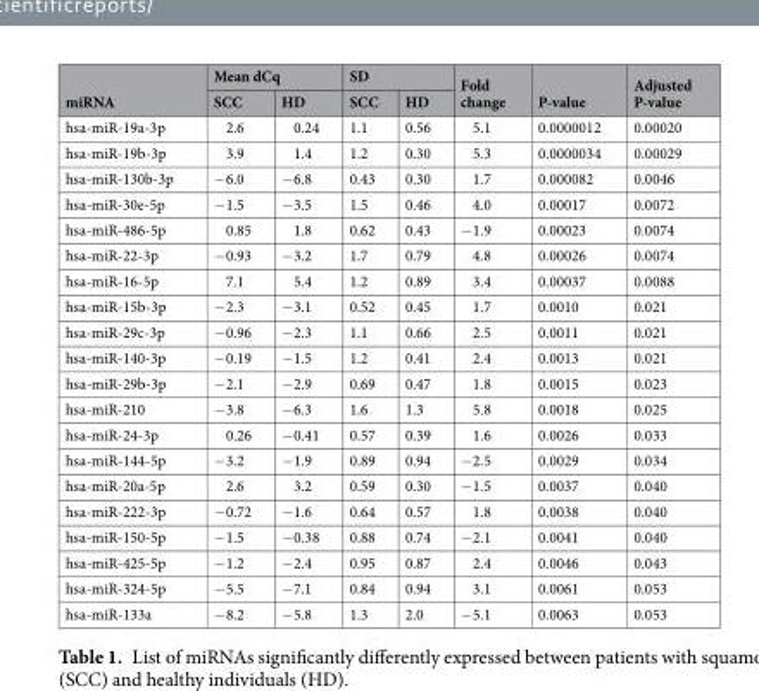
<table><thead><tr><td rowspan="2">miRNA</td><td colspan="2">Mean dCq</td><td colspan="2">SD</td><td rowspan="2">Fold change</td><td rowspan="2">P-value</td><td rowspan="2">Adjusted P-value</td></tr><tr><td>SCC</td><td>HD</td><td>SCC</td><td>HD</td></tr></thead><tbody><tr><td>hsa-miR-19a-3p</td><td>2.6</td><td>0.24</td><td>1.1</td><td>0.56</td><td>5.1</td><td>0.0000012</td><td>0.00020</td></tr><tr><td>hsa-miR-19b-3p</td><td>3.9</td><td>1.4</td><td>1.2</td><td>0.30</td><td>5.3</td><td>0.0000034</td><td>0.00029</td></tr><tr><td>hsa-miR-130b-3p</td><td>−6.0</td><td>−6.8</td><td>0.43</td><td>0.30</td><td>1.7</td><td>0.000082</td><td>0.0046</td></tr><tr><td>hsa-miR-30e-5p</td><td>−1.5</td><td>−3.5</td><td>1.5</td><td>0.46</td><td>4.0</td><td>0.00017</td><td>0.0072</td></tr><tr><td>hsa-miR-486-5p</td><td>0.85</td><td>1.8</td><td>0.62</td><td>0.43</td><td>−1.9</td><td>0.00023</td><td>0.0074</td></tr><tr><td>hsa-miR-22-3p</td><td>−0.93</td><td>−3.2</td><td>1.7</td><td>0.79</td><td>4.8</td><td>0.00026</td><td>0.0074</td></tr><tr><td>hsa-miR-16-5p</td><td>7.1</td><td>5.4</td><td>1.2</td><td>0.89</td><td>3.4</td><td>0.00037</td><td>0.0088</td></tr><tr><td>hsa-miR-15b-3p</td><td>−2.3</td><td>−3.1</td><td>0.52</td><td>0.45</td><td>1.7</td><td>0.0010</td><td>0.021</td></tr><tr><td>hsa-miR-29c-3p</td><td>−0.96</td><td>−2.3</td><td>1.1</td><td>0.66</td><td>2.5</td><td>0.0011</td><td>0.021</td></tr><tr><td>hsa-miR-140-3p</td><td>−0.19</td><td>−1.5</td><td>1.2</td><td>0.41</td><td>2.4</td><td>0.0013</td><td>0.021</td></tr><tr><td>hsa-miR-29b-3p</td><td>−2.1</td><td>−2.9</td><td>0.69</td><td>0.47</td><td>1.8</td><td>0.0015</td><td>0.023</td></tr><tr><td>hsa-miR-210</td><td>−3.8</td><td>−6.3</td><td>1.6</td><td>1.3</td><td>5.8</td><td>0.0018</td><td>0.025</td></tr><tr><td>hsa-miR-24-3p</td><td>0.26</td><td>−0.41</td><td>0.57</td><td>0.39</td><td>1.6</td><td>0.0026</td><td>0.033</td></tr><tr><td>hsa-miR-144-5p</td><td>−3.2</td><td>−1.9</td><td>0.89</td><td>0.94</td><td>−2.5</td><td>0.0029</td><td>0.034</td></tr><tr><td>hsa-miR-20a-5p</td><td>2.6</td><td>3.2</td><td>0.59</td><td>0.30</td><td>−1.5</td><td>0.0037</td><td>0.040</td></tr><tr><td>hsa-miR-222-3p</td><td>−0.72</td><td>−1.6</td><td>0.64</td><td>0.57</td><td>1.8</td><td>0.0038</td><td>0.040</td></tr><tr><td>hsa-miR-150-5p</td><td>−1.5</td><td>−0.38</td><td>0.88</td><td>0.74</td><td>−2.1</td><td>0.0041</td><td>0.040</td></tr><tr><td>hsa-miR-425-5p</td><td>−1.2</td><td>−2.4</td><td>0.95</td><td>0.87</td><td>2.4</td><td>0.0046</td><td>0.043</td></tr><tr><td>hsa-miR-324-5p</td><td>−5.5</td><td>−7.1</td><td>0.84</td><td>0.94</td><td>3.1</td><td>0.0061</td><td>0.053</td></tr><tr><td>hsa-miR-133a</td><td>−8.2</td><td>−5.8</td><td>1.3</td><td>2.0</td><td>−5.1</td><td>0.0063</td><td>0.053</td></tr></tbody></table>